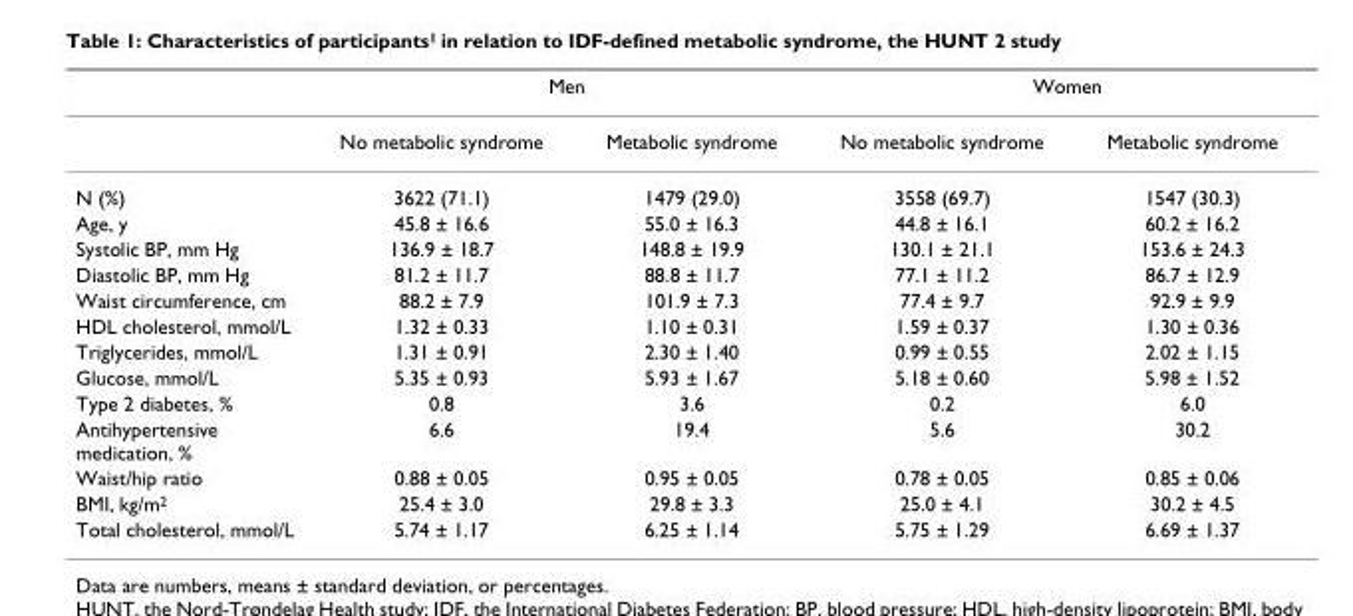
<table><thead><tr><td rowspan="2"></td><td colspan="2">Men</td><td colspan="2">Women</td></tr><tr><td>No metabolic syndrome</td><td>Metabolic syndrome</td><td>No metabolic syndrome</td><td>Metabolic syndrome</td></tr></thead><tbody><tr><td>N (%)</td><td>3622 (71.1)</td><td>1479 (29.0)</td><td>3558 (69.7)</td><td>1547 (30.3)</td></tr><tr><td>Age, y</td><td>45.8 ± 16.6</td><td>55.0 ± 16.3</td><td>44.8 ± 16.1</td><td>60.2 ± 16.2</td></tr><tr><td>Systolic BP, mm Hg</td><td>136.9 ± 18.7</td><td>148.8 ± 19.9</td><td>130.1 ± 21.1</td><td>153.6 ± 24.3</td></tr><tr><td>Diastolic BP, mm Hg</td><td>81.2 ± 11.7</td><td>88.8 ± 11.7</td><td>77.1 ± 11.2</td><td>86.7 ± 12.9</td></tr><tr><td>Waist circumference, cm</td><td>88.2 ± 7.9</td><td>101.9 ± 7.3</td><td>77.4 ± 9.7</td><td>92.9 ± 9.9</td></tr><tr><td>HDL cholesterol, mmol/L</td><td>1.32 ± 0.33</td><td>1.10 ± 0.31</td><td>1.59 ± 0.37</td><td>1.30 ± 0.36</td></tr><tr><td>Triglycerides, mmol/L</td><td>1.31 ± 0.91</td><td>2.30 ± 1.40</td><td>0.99 ± 0.55</td><td>2.02 ± 1.15</td></tr><tr><td>Glucose, mmol/L</td><td>5.35 ± 0.93</td><td>5.93 ± 1.67</td><td>5.18 ± 0.60</td><td>5.98 ± 1.52</td></tr><tr><td>Type 2 diabetes, %</td><td>0.8</td><td>3.6</td><td>0.2</td><td>6.0</td></tr><tr><td>Antihypertensive medication, %</td><td>6.6</td><td>19.4</td><td>5.6</td><td>30.2</td></tr><tr><td>Waist/hip ratio</td><td>0.88 ± 0.05</td><td>0.95 ± 0.05</td><td>0.78 ± 0.05</td><td>0.85 ± 0.06</td></tr><tr><td>BMI, kg/m<sup>2</sup></td><td>25.4 ± 3.0</td><td>29.8 ± 3.3</td><td>25.0 ± 4.1</td><td>30.2 ± 4.5</td></tr><tr><td>Total cholesterol, mmol/L</td><td>5.74 ± 1.17</td><td>6.25 ± 1.14</td><td>5.75 ± 1.29</td><td>6.69 ± 1.37</td></tr></tbody></table>